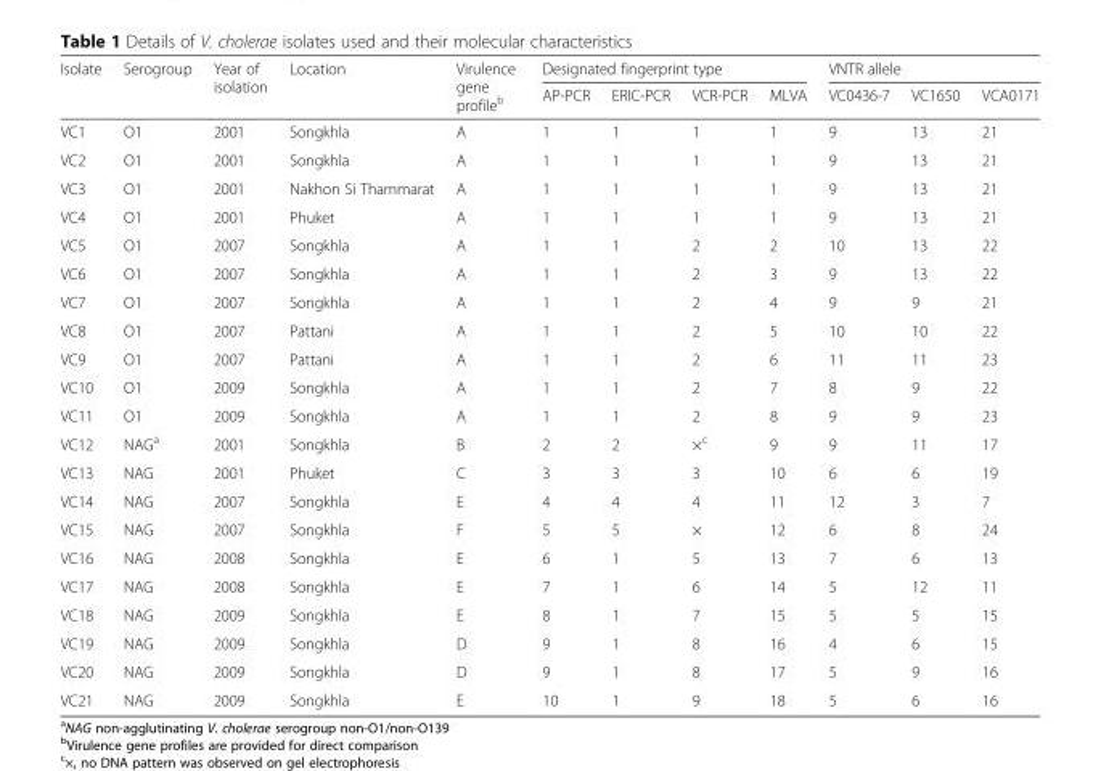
<table><thead><tr><td rowspan="2">Isolate</td><td rowspan="2">Serogroup</td><td rowspan="2">Year of isolation</td><td rowspan="2">Location</td><td rowspan="2">Virulence gene profile<sup>b</sup></td><td colspan="4">Designated fingerprint type</td><td colspan="3">VNTR allele</td></tr><tr><td>AP-PCR</td><td>ERIC-PCR</td><td>VCR-PCR</td><td>MLVA</td><td>VC0436-7</td><td>VC1650</td><td>VCA0171</td></tr></thead><tbody><tr><td>VC1</td><td>O1</td><td>2001</td><td>Songkhla</td><td>A</td><td>1</td><td>1</td><td>1</td><td>1</td><td>9</td><td>13</td><td>21</td></tr><tr><td>VC2</td><td>O1</td><td>2001</td><td>Songkhla</td><td>A</td><td>1</td><td>1</td><td>1</td><td>1</td><td>9</td><td>13</td><td>21</td></tr><tr><td>VC3</td><td>O1</td><td>2001</td><td>Nakhon Si Thammarat</td><td>A</td><td>1</td><td>1</td><td>1</td><td>1</td><td>9</td><td>13</td><td>21</td></tr><tr><td>VC4</td><td>O1</td><td>2001</td><td>Phuket</td><td>A</td><td>1</td><td>1</td><td>1</td><td>1</td><td>9</td><td>13</td><td>21</td></tr><tr><td>VC5</td><td>O1</td><td>2007</td><td>Songkhla</td><td>A</td><td>1</td><td>1</td><td>2</td><td>2</td><td>10</td><td>13</td><td>22</td></tr><tr><td>VC6</td><td>O1</td><td>2007</td><td>Songkhla</td><td>A</td><td>1</td><td>1</td><td>2</td><td>3</td><td>9</td><td>13</td><td>22</td></tr><tr><td>VC7</td><td>O1</td><td>2007</td><td>Songkhla</td><td>A</td><td>1</td><td>1</td><td>2</td><td>4</td><td>9</td><td>9</td><td>21</td></tr><tr><td>VC8</td><td>O1</td><td>2007</td><td>Pattani</td><td>A</td><td>1</td><td>1</td><td>2</td><td>5</td><td>10</td><td>10</td><td>22</td></tr><tr><td>VC9</td><td>O1</td><td>2007</td><td>Pattani</td><td>A</td><td>1</td><td>1</td><td>2</td><td>6</td><td>11</td><td>11</td><td>23</td></tr><tr><td>VC10</td><td>O1</td><td>2009</td><td>Songkhla</td><td>A</td><td>1</td><td>1</td><td>2</td><td>7</td><td>8</td><td>9</td><td>22</td></tr><tr><td>VC11</td><td>O1</td><td>2009</td><td>Songkhla</td><td>A</td><td>1</td><td>1</td><td>2</td><td>8</td><td>9</td><td>9</td><td>23</td></tr><tr><td>VC12</td><td>NAG<sup>a</sup></td><td>2001</td><td>Songkhla</td><td>B</td><td>2</td><td>2</td><td>×<sup>c</sup></td><td>9</td><td>9</td><td>11</td><td>17</td></tr><tr><td>VC13</td><td>NAG</td><td>2001</td><td>Phuket</td><td>C</td><td>3</td><td>3</td><td>3</td><td>10</td><td>6</td><td>6</td><td>19</td></tr><tr><td>VC14</td><td>NAG</td><td>2007</td><td>Songkhla</td><td>E</td><td>4</td><td>4</td><td>4</td><td>11</td><td>12</td><td>3</td><td>7</td></tr><tr><td>VC15</td><td>NAG</td><td>2007</td><td>Songkhla</td><td>F</td><td>5</td><td>5</td><td>×</td><td>12</td><td>6</td><td>8</td><td>24</td></tr><tr><td>VC16</td><td>NAG</td><td>2008</td><td>Songkhla</td><td>E</td><td>6</td><td>1</td><td>5</td><td>13</td><td>7</td><td>6</td><td>13</td></tr><tr><td>VC17</td><td>NAG</td><td>2008</td><td>Songkhla</td><td>E</td><td>7</td><td>1</td><td>6</td><td>14</td><td>5</td><td>12</td><td>11</td></tr><tr><td>VC18</td><td>NAG</td><td>2009</td><td>Songkhla</td><td>E</td><td>8</td><td>1</td><td>7</td><td>15</td><td>5</td><td>5</td><td>15</td></tr><tr><td>VC19</td><td>NAG</td><td>2009</td><td>Songkhla</td><td>D</td><td>9</td><td>1</td><td>8</td><td>16</td><td>4</td><td>6</td><td>15</td></tr><tr><td>VC20</td><td>NAG</td><td>2009</td><td>Songkhla</td><td>D</td><td>9</td><td>1</td><td>8</td><td>17</td><td>5</td><td>9</td><td>16</td></tr><tr><td>VC21</td><td>NAG</td><td>2009</td><td>Songkhla</td><td>E</td><td>10</td><td>1</td><td>9</td><td>18</td><td>5</td><td>6</td><td>16</td></tr></tbody></table>